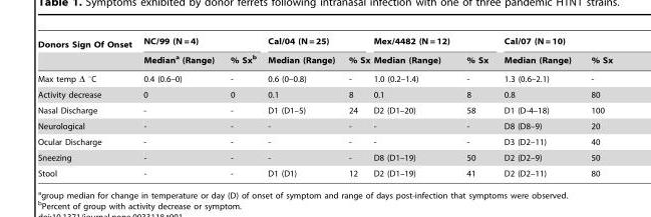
<table><thead><tr><td rowspan="2">Donors Sign Of Onset</td><td colspan="2">NC/99 (N = 4)</td><td colspan="2">Cal/04 (N = 25)</td><td colspan="2">Mex/4482 (N = 12)</td><td colspan="2">Cal/07 (N = 10)</td></tr><tr><td>Median<sup>a</sup> (Range)</td><td>% Sx<sup>b</sup></td><td>Median (Range)</td><td>% Sx</td><td>Median (Range)</td><td>% Sx</td><td>Median (Range)</td><td>% Sx</td></tr></thead><tbody><tr><td>Max temp Δ °C</td><td>0.4 (0.6–0)</td><td>-</td><td>0.6 (0–0.8)</td><td>-</td><td>1.0 (0.2–1.4)</td><td>-</td><td>1.3 (0.6–2.1)</td><td>-</td></tr><tr><td>Activity decrease</td><td>0</td><td>0</td><td>0.1</td><td>8</td><td>0.1</td><td>8</td><td>0.8</td><td>80</td></tr><tr><td>Nasal Discharge</td><td>-</td><td>-</td><td>D1 (D1–5)</td><td>24</td><td>D2 (D1–20)</td><td>58</td><td>D1 (D-4–18)</td><td>100</td></tr><tr><td>Neurological</td><td>-</td><td>-</td><td>-</td><td>-</td><td>-</td><td>-</td><td>D8 (D8–9)</td><td>20</td></tr><tr><td>Ocular Discharge</td><td>-</td><td>-</td><td>-</td><td>-</td><td>-</td><td>-</td><td>D3 (D2–11)</td><td>40</td></tr><tr><td>Sneezing</td><td>-</td><td>-</td><td>-</td><td>-</td><td>D8 (D1–19)</td><td>50</td><td>D2 (D2–9)</td><td>50</td></tr><tr><td>Stool</td><td>-</td><td>-</td><td>D1 (D1)</td><td>12</td><td>D2 (D1–19)</td><td>41</td><td>D2 (D2–11)</td><td>80</td></tr></tbody></table>